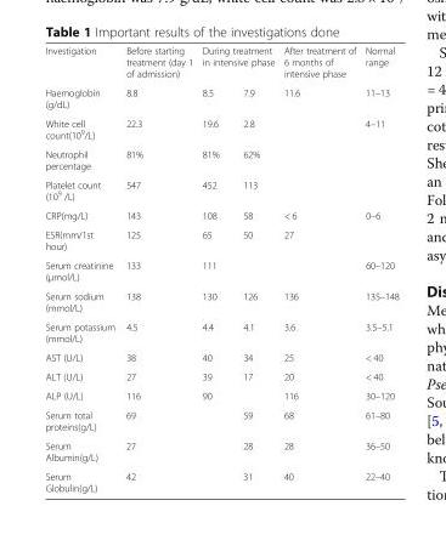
<table><tbody><tr><td>Investigation</td><td>Before starting treatment (day 1 of admission)</td><td colspan="2">During treatment in intensive phase</td><td>After treatment of 6 months of intensive phase</td><td>Normal range</td></tr><tr><td>Haemoglobin (g/dL)</td><td>8.8</td><td>8.5</td><td>7.9</td><td>11.6</td><td>11–13</td></tr><tr><td>White cell count(10<sup>9</sup>/L)</td><td>22.3</td><td>19.6</td><td>2.8</td><td></td><td>4–11</td></tr><tr><td>Neutrophil percentage</td><td>81%</td><td>81%</td><td>62%</td><td></td><td></td></tr><tr><td>Platelet count (10<sup>9</sup> /L)</td><td>547</td><td>452</td><td>113</td><td></td><td></td></tr><tr><td>CRP(mg/L)</td><td>143</td><td>108</td><td>58</td><td>&lt; 6</td><td>0–6</td></tr><tr><td>ESR(mm/1st hour)</td><td>125</td><td>65</td><td>50</td><td>27</td><td></td></tr><tr><td>Serum creatinine (μmol/L)</td><td>133</td><td>111</td><td></td><td></td><td>60–120</td></tr><tr><td>Serum sodium (mmol/L)</td><td>138</td><td>130</td><td>126</td><td>136</td><td>135–148</td></tr><tr><td>Serum potassium (mmol/L)</td><td>4.5</td><td>4.4</td><td>4.1</td><td>3.6</td><td>3.5–5.1</td></tr><tr><td>AST (U/L)</td><td>38</td><td>40</td><td>34</td><td>25</td><td>&lt; 40</td></tr><tr><td>ALT (U/L)</td><td>27</td><td>39</td><td>17</td><td>20</td><td>&lt; 40</td></tr><tr><td>ALP (U/L)</td><td>116</td><td>90</td><td></td><td>116</td><td>30–120</td></tr><tr><td>Serum total proteins(g/L)</td><td>69</td><td></td><td>59</td><td>68</td><td>61–80</td></tr><tr><td>Serum Albumin(g/L)</td><td>27</td><td></td><td>28</td><td>28</td><td>36–50</td></tr><tr><td>Serum Globulin(g/L)</td><td>42</td><td></td><td>31</td><td>40</td><td>22–40</td></tr></tbody></table>